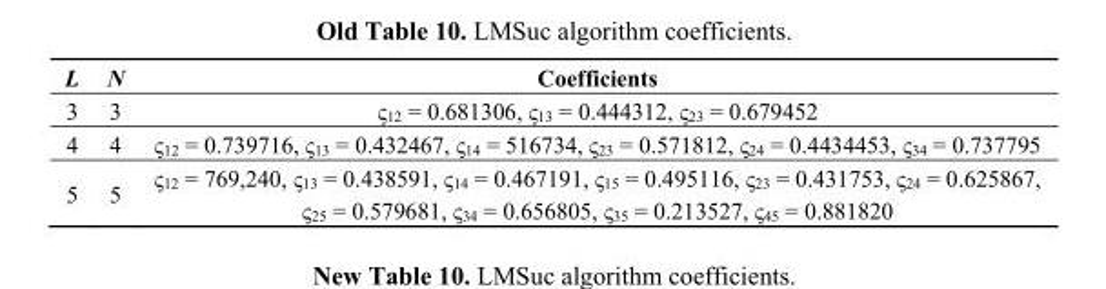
<table><thead><tr><td>L</td><td>N</td><td>Coefficients</td></tr></thead><tbody><tr><td>3</td><td>3</td><td>ς<sub>12</sub> = 0.681306, ς<sub>13</sub> = 0.444312, ς<sub>23</sub> = 0.679452</td></tr><tr><td>4</td><td>4</td><td>ς<sub>12</sub> = 0.739716, ς<sub>13</sub> = 0.432467, ς<sub>14</sub> = 516734, ς<sub>23</sub> = 0.571812, ς<sub>24</sub> = 0.4434453, ς<sub>34</sub> = 0.737795</td></tr><tr><td>5</td><td>5</td><td>ς<sub>12</sub> = 769,240, ς<sub>13</sub> = 0.438591, ς<sub>14</sub> = 0.467191, ς<sub>15</sub> = 0.495116, ς<sub>23</sub> = 0.431753, ς<sub>24</sub> = 0.625867, ς<sub>25</sub> = 0.579681, ς<sub>34</sub> = 0.656805, ς<sub>35</sub> = 0.213527, ς<sub>45</sub> = 0.881820</td></tr></tbody></table>